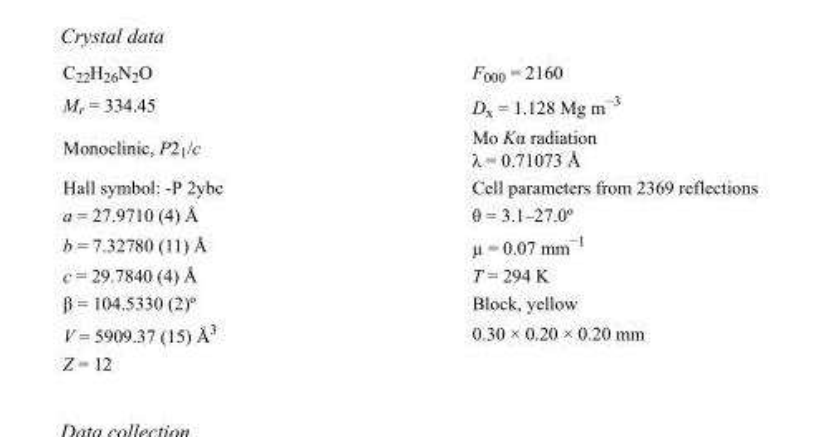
<table><tbody><tr><td>C<sub>22</sub>H<sub>26</sub>N<sub>2</sub>O</td><td>F000 = 2160</td></tr><tr><td>M<sub>r</sub> = 334.45</td><td>D<sub>x</sub> = 1.128 Mg m<sup>−3</sup></td></tr><tr><td>Monoclinic, P2<sub>1</sub>/c</td><td>Mo Kα radiation λ = 0.71073 Å</td></tr><tr><td>Hall symbol: -P 2ybc</td><td>Cell parameters from 2369 reflections</td></tr><tr><td>a = 27.9710 (4) Å</td><td>θ = 3.1–27.0º</td></tr><tr><td>b = 7.32780 (11) Å</td><td>µ = 0.07 mm<sup>−1</sup></td></tr><tr><td>c = 29.7840 (4) Å</td><td>T = 294 K</td></tr><tr><td>β = 104.5330 (2)º</td><td>Block, yellow</td></tr><tr><td>V = 5909.37 (15) Å<sup>3</sup></td><td>0.30 × 0.20 × 0.20 mm</td></tr><tr><td>Z = 12</td><td></td></tr></tbody></table>